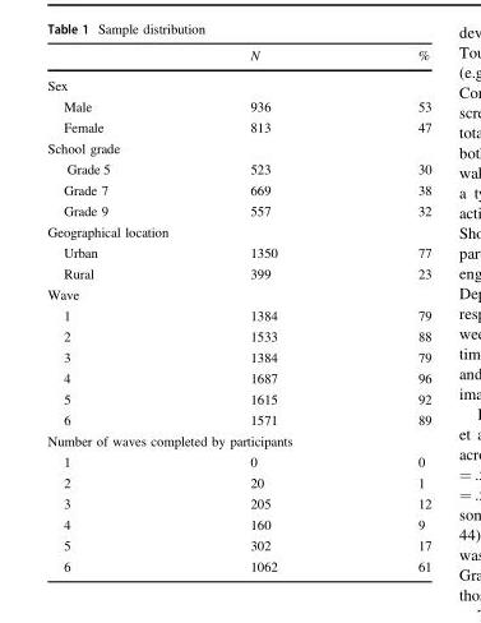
<table><thead><tr><td></td><td>N</td><td>%</td></tr></thead><tbody><tr><td colspan="3">Sex</td></tr><tr><td>Male</td><td>936</td><td>53</td></tr><tr><td>Female</td><td>813</td><td>47</td></tr><tr><td colspan="3">School grade</td></tr><tr><td>Grade 5</td><td>523</td><td>30</td></tr><tr><td>Grade 7</td><td>669</td><td>38</td></tr><tr><td>Grade 9</td><td>557</td><td>32</td></tr><tr><td colspan="3">Geographical location</td></tr><tr><td>Urban</td><td>1350</td><td>77</td></tr><tr><td>Rural</td><td>399</td><td>23</td></tr><tr><td colspan="3">Wave</td></tr><tr><td>1</td><td>1384</td><td>79</td></tr><tr><td>2</td><td>1533</td><td>88</td></tr><tr><td>3</td><td>1384</td><td>79</td></tr><tr><td>4</td><td>1687</td><td>96</td></tr><tr><td>5</td><td>1615</td><td>92</td></tr><tr><td>6</td><td>1571</td><td>89</td></tr><tr><td colspan="3">Number of waves completed by participants</td></tr><tr><td>1</td><td>0</td><td>0</td></tr><tr><td>2</td><td>20</td><td>1</td></tr><tr><td>3</td><td>205</td><td>12</td></tr><tr><td>4</td><td>160</td><td>9</td></tr><tr><td>5</td><td>302</td><td>17</td></tr><tr><td>6</td><td>1062</td><td>61</td></tr></tbody></table>